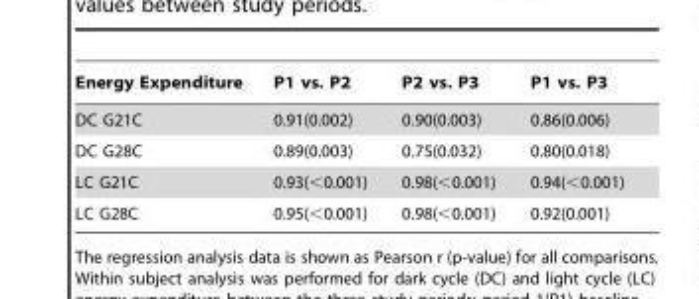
<table><thead><tr><td>Energy Expenditure</td><td>P1 vs. P2</td><td>P2 vs. P3</td><td>P1 vs. P3</td></tr></thead><tbody><tr><td>DC G21C</td><td>0.91(0.002)</td><td>0.90(0.003)</td><td>0.86(0.006)</td></tr><tr><td>DC G28C</td><td>0.89(0.003)</td><td>0.75(0.032)</td><td>0.80(0.018)</td></tr><tr><td>LC G21C</td><td>0.93(&lt;0.001)</td><td>0.98(&lt;0.001)</td><td>0.94(&lt;0.001)</td></tr><tr><td>LC G28C</td><td>0.95(&lt;0.001)</td><td>0.98(&lt;0.001)</td><td>0.92(0.001)</td></tr></tbody></table>